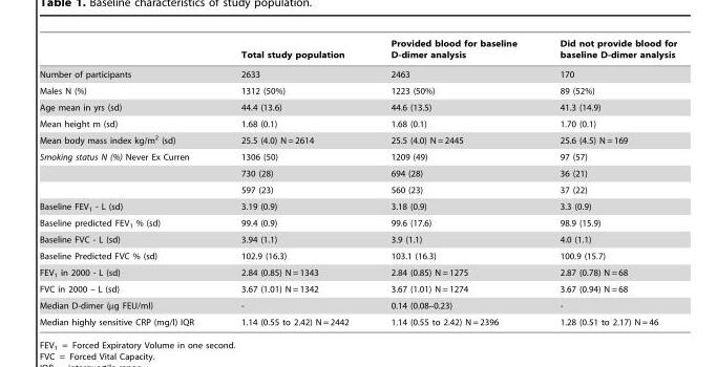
<table><thead><tr><td></td><td>Total study population</td><td>Provided blood for baseline D-dimer analysis</td><td>Did not provide blood for baseline D-dimer analysis</td></tr></thead><tbody><tr><td>Number of participants</td><td>2633</td><td>2463</td><td>170</td></tr><tr><td>Males N (%)</td><td>1312 (50%)</td><td>1223 (50%)</td><td>89 (52%)</td></tr><tr><td>Age mean in yrs (sd)</td><td>44.4 (13.6)</td><td>44.6 (13.5)</td><td>41.3 (14.9)</td></tr><tr><td>Mean height m (sd)</td><td>1.68 (0.1)</td><td>1.68 (0.1)</td><td>1.70 (0.1)</td></tr><tr><td>Mean body mass index kg/m<sup>2</sup> (sd)</td><td>25.5 (4.0) N = 2614</td><td>25.5 (4.0) N = 2445</td><td>25.6 (4.5) N = 169</td></tr><tr><td rowspan="3">Smoking status N (%) Never Ex Curren</td><td>1306 (50)</td><td>1209 (49)</td><td>97 (57)</td></tr><tr><td>730 (28)</td><td>694 (28)</td><td>36 (21)</td></tr><tr><td>597 (23)</td><td>560 (23)</td><td>37 (22)</td></tr><tr><td>Baseline FEV<sub>1</sub> - L (sd)</td><td>3.19 (0.9)</td><td>3.18 (0.9)</td><td>3.3 (0.9)</td></tr><tr><td>Baseline predicted FEV<sub>1</sub> % (sd)</td><td>99.4 (0.9)</td><td>99.6 (17.6)</td><td>98.9 (15.9)</td></tr><tr><td>Baseline FVC - L (sd)</td><td>3.94 (1.1)</td><td>3.9 (1.1)</td><td>4.0 (1.1)</td></tr><tr><td>Baseline Predicted FVC % (sd)</td><td>102.9 (16.3)</td><td>103.1 (16.3)</td><td>100.9 (15.7)</td></tr><tr><td>FEV<sub>1</sub> in 2000 - L (sd)</td><td>2.84 (0.85) N = 1343</td><td>2.84 (0.85) N = 1275</td><td>2.87 (0.78) N = 68</td></tr><tr><td>FVC in 2000 – L (sd)</td><td>3.67 (1.01) N = 1342</td><td>3.67 (1.01) N = 1274</td><td>3.67 (0.94) N = 68</td></tr><tr><td>Median D-dimer (µg FEU/ml)</td><td>-</td><td>0.14 (0.08–0.23)</td><td>-</td></tr><tr><td>Median highly sensitive CRP (mg/l) IQR</td><td>1.14 (0.55 to 2.42) N = 2442</td><td>1.14 (0.55 to 2.42) N = 2396</td><td>1.28 (0.51 to 2.17) N = 46</td></tr></tbody></table>